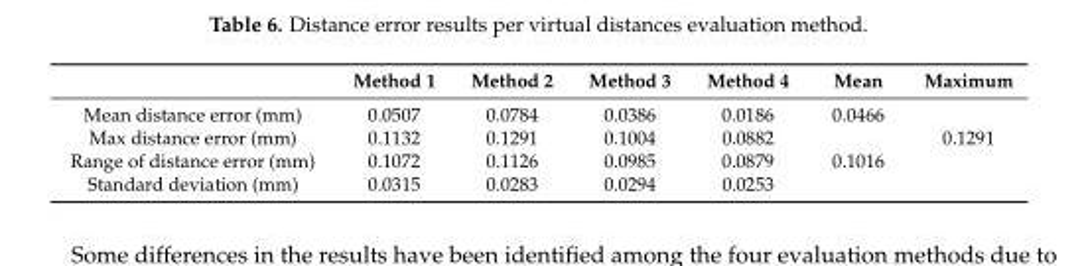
<table><thead><tr><td></td><td>Method 1</td><td>Method 2</td><td>Method 3</td><td>Method 4</td><td>Mean</td><td>Maximum</td></tr></thead><tbody><tr><td>Mean distance error (mm)</td><td>0.0507</td><td>0.0784</td><td>0.0386</td><td>0.0186</td><td>0.0466</td><td></td></tr><tr><td>Max distance error (mm)</td><td>0.1132</td><td>0.1291</td><td>0.1004</td><td>0.0882</td><td></td><td>0.1291</td></tr><tr><td>Range of distance error (mm)</td><td>0.1072</td><td>0.1126</td><td>0.0985</td><td>0.0879</td><td>0.1016</td><td></td></tr><tr><td>Standard deviation (mm)</td><td>0.0315</td><td>0.0283</td><td>0.0294</td><td>0.0253</td><td></td><td></td></tr></tbody></table>